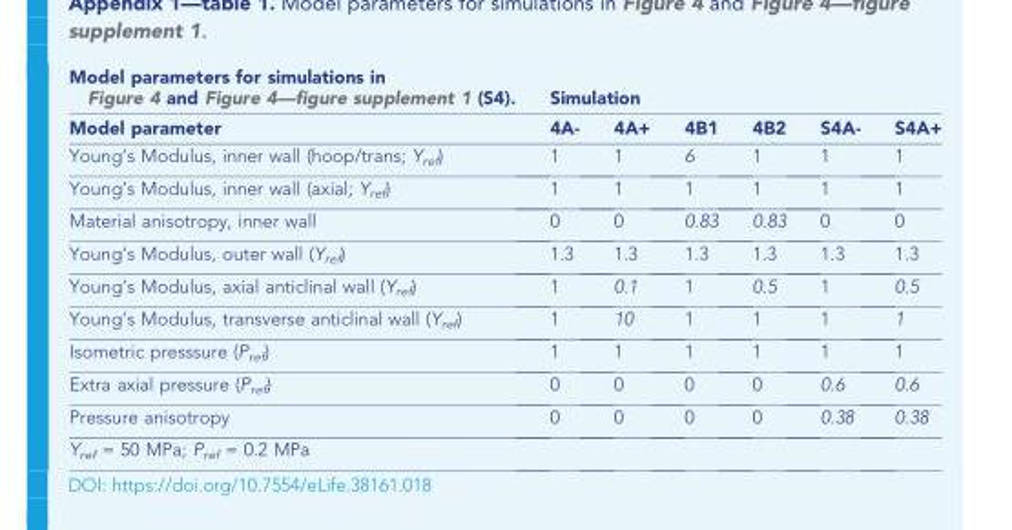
<table><thead><tr><td rowspan="2">Model parameters for simulations in Figure 4 and Figure 4—figure supplement 1 (S4). Model parameter</td><td colspan="6">Simulation</td></tr><tr><td>4A-</td><td>4A+</td><td>4B1</td><td>4B2</td><td>S4A-</td><td>S4A+</td></tr></thead><tbody><tr><td>Young’s Modulus, inner wall (hoop/trans; Y<sub>ref</sub>)</td><td>1</td><td>1</td><td>6</td><td>1</td><td>1</td><td>1</td></tr><tr><td>Young’s Modulus, inner wall (axial; Y<sub>ref</sub>)</td><td>1</td><td>1</td><td>1</td><td>1</td><td>1</td><td>1</td></tr><tr><td>Material anisotropy, inner wall</td><td>0</td><td>0</td><td>0.83</td><td>0.83</td><td>0</td><td>0</td></tr><tr><td>Young’s Modulus, outer wall (Y<sub>ref</sub>)</td><td>1.3</td><td>1.3</td><td>1.3</td><td>1.3</td><td>1.3</td><td>1.3</td></tr><tr><td>Young’s Modulus, axial anticlinal wall (Y<sub>ref</sub>)</td><td>1</td><td>0.1</td><td>1</td><td>0.5</td><td>1</td><td>0.5</td></tr><tr><td>Young’s Modulus, transverse anticlinal wall (Y<sub>ref</sub>)</td><td>1</td><td>10</td><td>1</td><td>1</td><td>1</td><td>1</td></tr><tr><td>Isometric presssure (P<sub>ref</sub>)</td><td>1</td><td>1</td><td>1</td><td>1</td><td>1</td><td>1</td></tr><tr><td>Extra axial pressure (P<sub>ref</sub>)</td><td>0</td><td>0</td><td>0</td><td>0</td><td>0.6</td><td>0.6</td></tr><tr><td>Pressure anisotropy</td><td>0</td><td>0</td><td>0</td><td>0</td><td>0.38</td><td>0.38</td></tr><tr><td>Y<sub>ref</sub> = 50 MPa; P<sub>ref</sub> = 0.2 MPa</td><td></td><td></td><td></td><td></td><td></td><td></td></tr></tbody></table>